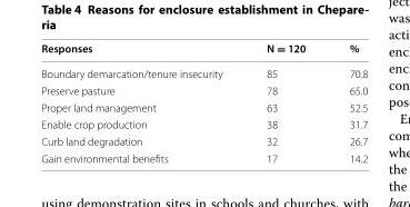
<table><thead><tr><td>Responses</td><td>N = 120</td><td>%</td></tr></thead><tbody><tr><td>Boundary demarcation/tenure insecurity</td><td>85</td><td>70.8</td></tr><tr><td>Preserve pasture</td><td>78</td><td>65.0</td></tr><tr><td>Proper land management</td><td>63</td><td>52.5</td></tr><tr><td>Enable crop production</td><td>38</td><td>31.7</td></tr><tr><td>Curb land degradation</td><td>32</td><td>26.7</td></tr><tr><td>Gain environmental benefits</td><td>17</td><td>14.2</td></tr></tbody></table>